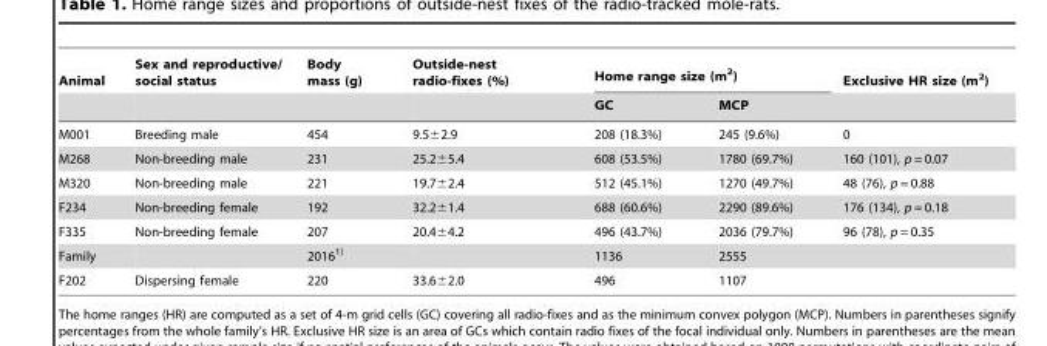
<table><thead><tr><td rowspan="2">Animal</td><td rowspan="2">Sex and reproductive/ social status</td><td rowspan="2">Body mass (g)</td><td rowspan="2">Outside-nest radio-fixes (%)</td><td colspan="2">Home range size (m<sup>2</sup>)</td><td rowspan="2">Exclusive HR size (m<sup>2</sup>)</td></tr><tr><td>GC</td><td>MCP</td></tr></thead><tbody><tr><td>M001</td><td>Breeding male</td><td>454</td><td>9.5±2.9</td><td>208 (18.3%)</td><td>245 (9.6%)</td><td>0</td></tr><tr><td>M268</td><td>Non-breeding male</td><td>231</td><td>25.2±5.4</td><td>608 (53.5%)</td><td>1780 (69.7%)</td><td>160 (101), p = 0.07</td></tr><tr><td>M320</td><td>Non-breeding male</td><td>221</td><td>19.7±2.4</td><td>512 (45.1%)</td><td>1270 (49.7%)</td><td>48 (76), p = 0.88</td></tr><tr><td>F234</td><td>Non-breeding female</td><td>192</td><td>32.2±1.4</td><td>688 (60.6%)</td><td>2290 (89.6%)</td><td>176 (134), p = 0.18</td></tr><tr><td>F335</td><td>Non-breeding female</td><td>207</td><td>20.4±4.2</td><td>496 (43.7%)</td><td>2036 (79.7%)</td><td>96 (78), p = 0.35</td></tr><tr><td>Family</td><td></td><td>20161)</td><td></td><td>1136</td><td>2555</td><td></td></tr><tr><td>F202</td><td>Dispersing female</td><td>220</td><td>33.6±2.0</td><td>496</td><td>1107</td><td></td></tr></tbody></table>